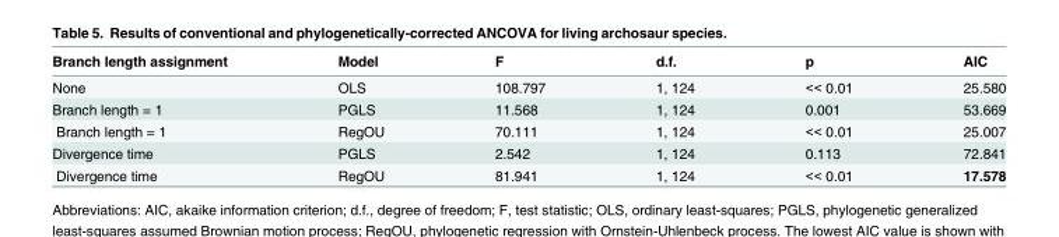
<table><thead><tr><td>Branch length assignment</td><td>Model</td><td>F</td><td>d.f.</td><td>p</td><td>AIC</td></tr></thead><tbody><tr><td>None</td><td>OLS</td><td>108.797</td><td>1, 124</td><td>&lt;&lt; 0.01</td><td>25.580</td></tr><tr><td>Branch length = 1</td><td>PGLS</td><td>11.568</td><td>1, 124</td><td>0.001</td><td>53.669</td></tr><tr><td>Branch length = 1</td><td>RegOU</td><td>70.111</td><td>1, 124</td><td>&lt;&lt; 0.01</td><td>25.007</td></tr><tr><td>Divergence time</td><td>PGLS</td><td>2.542</td><td>1, 124</td><td>0.113</td><td>72.841</td></tr><tr><td>Divergence time</td><td>RegOU</td><td>81.941</td><td>1, 124</td><td>&lt;&lt; 0.01</td><td>17.578</td></tr></tbody></table>